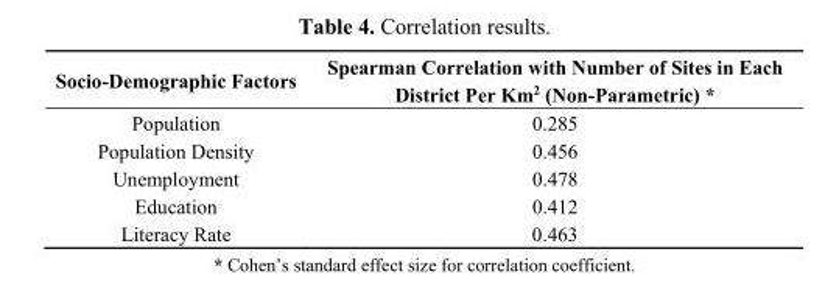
<table><thead><tr><td>Socio-Demographic Factors</td><td>Spearman Correlation with Number of Sites in Each District Per Km<sup>2</sup> (Non-Parametric) *</td></tr></thead><tbody><tr><td>Population</td><td>0.285</td></tr><tr><td>Population Density</td><td>0.456</td></tr><tr><td>Unemployment</td><td>0.478</td></tr><tr><td>Education</td><td>0.412</td></tr><tr><td>Literacy Rate</td><td>0.463</td></tr></tbody></table>